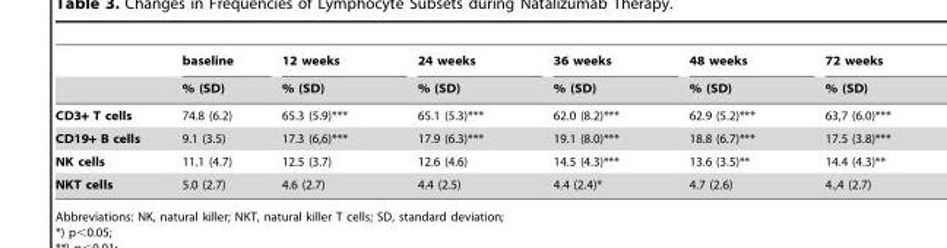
<table><thead><tr><td rowspan="2"></td><td rowspan="2">baseline % (SD)</td><td rowspan="2">12 weeks % (SD)</td><td rowspan="2">24 weeks % (SD)</td><td rowspan="2">36 weeks % (SD)</td><td rowspan="2">48 weeks % (SD)</td><td rowspan="2">72 weeks % (SD)</td></tr><tr></tr></thead><tbody><tr><td>CD3+ T cells</td><td>74.8 (6.2)</td><td>65.3 (5.9)***</td><td>65.1 (5.3)***</td><td>62.0 (8.2)***</td><td>62.9 (5.2)***</td><td>63,7 (6.0)***</td></tr><tr><td>CD19+ B cells</td><td>9.1 (3.5)</td><td>17.3 (6,6)***</td><td>17.9 (6.3)***</td><td>19.1 (8.0)***</td><td>18.8 (6.7)***</td><td>17.5 (3.8)***</td></tr><tr><td>NK cells</td><td>11.1 (4.7)</td><td>12.5 (3.7)</td><td>12.6 (4.6)</td><td>14.5 (4.3)***</td><td>13.6 (3.5)**</td><td>14.4 (4.3)**</td></tr><tr><td>NKT cells</td><td>5.0 (2.7)</td><td>4.6 (2.7)</td><td>4.4 (2.5)</td><td>4.4 (2.4)*</td><td>4.7 (2.6)</td><td>4.,4 (2.7)</td></tr></tbody></table>